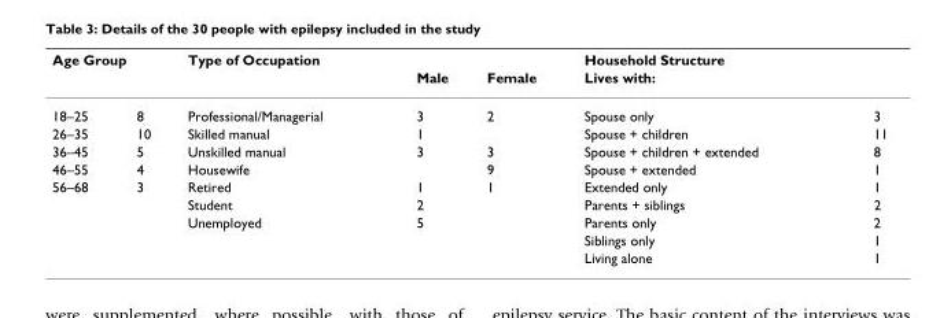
<table><thead><tr><td colspan="2">Age Group</td><td colspan="3">Type of Occupation</td><td rowspan="2" colspan="2">Household Structure Lives with:</td></tr><tr><td rowspan="2">18–25</td><td rowspan="2">8</td><td rowspan="2">Professional/Managerial</td><td rowspan="2">Male 3</td><td rowspan="2">Female 2</td></tr><tr><td>Spouse only</td><td>3</td></tr></thead><tbody><tr><td>26–35</td><td>10</td><td>Skilled manual</td><td>1</td><td></td><td>Spouse + children</td><td>11</td></tr><tr><td>36–45</td><td>5</td><td>Unskilled manual</td><td>3</td><td>3</td><td>Spouse + children + extended</td><td>8</td></tr><tr><td>46–55</td><td>4</td><td>Housewife</td><td></td><td>9</td><td>Spouse + extended</td><td>1</td></tr><tr><td rowspan="5">56–68</td><td>3</td><td>Retired</td><td>1</td><td>1</td><td>Extended only</td><td>1</td></tr><tr><td></td><td>Student</td><td>2</td><td></td><td>Parents + siblings</td><td>2</td></tr><tr><td></td><td>Unemployed</td><td>5</td><td></td><td>Parents only</td><td>2</td></tr><tr><td></td><td></td><td></td><td></td><td>Siblings only</td><td>1</td></tr><tr><td></td><td></td><td></td><td></td><td>Living alone</td><td>1</td></tr></tbody></table>